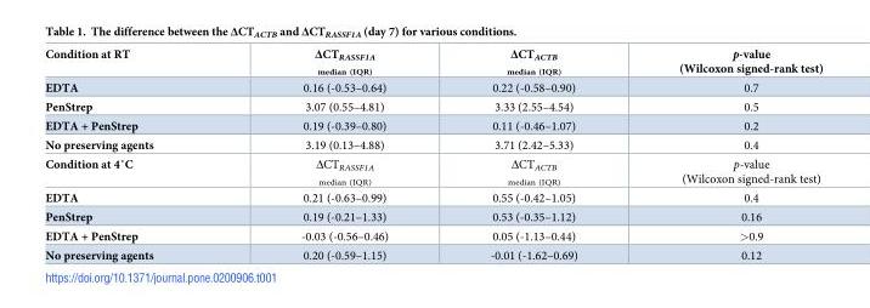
<table><tbody><tr><td>Condition at RT</td><td>ΔCT<sub>RASSF1A median (IQR)</sub></td><td>ΔCT<sub>ACTB median (IQR)</sub></td><td>p-value (Wilcoxon signed-rank test)</td></tr><tr><td>EDTA</td><td>0.16 (-0.53–0.64)</td><td>0.22 (-0.58–0.90)</td><td>0.7</td></tr><tr><td>PenStrep</td><td>3.07 (0.55–4.81)</td><td>3.33 (2.55–4.54)</td><td>0.5</td></tr><tr><td>EDTA + PenStrep</td><td>0.19 (-0.39–0.80)</td><td>0.11 (-0.46–1.07)</td><td>0.2</td></tr><tr><td>No preserving agents</td><td>3.19 (0.13–4.88)</td><td>3.71 (2.42–5.33)</td><td>0.4</td></tr><tr><td>Condition at 4˚C</td><td>ΔCTRASSF1A median (IQR)</td><td>ΔCT<sub>ACTB median (IQR)</sub></td><td>p-value (Wilcoxon signed-rank test)</td></tr><tr><td>EDTA</td><td>0.21 (-0.63–0.99)</td><td>0.55 (-0.42–1.05)</td><td>0.4</td></tr><tr><td>PenStrep</td><td>0.19 (-0.21–1.33)</td><td>0.53 (-0.35–1.12)</td><td>0.16</td></tr><tr><td>EDTA + PenStrep</td><td>-0.03 (-0.56–0.46)</td><td>0.05 (-1.13–0.44)</td><td>&gt;0.9</td></tr><tr><td>No preserving agents</td><td>0.20 (-0.59–1.15)</td><td>-0.01 (-1.62–0.69)</td><td>0.12</td></tr></tbody></table>